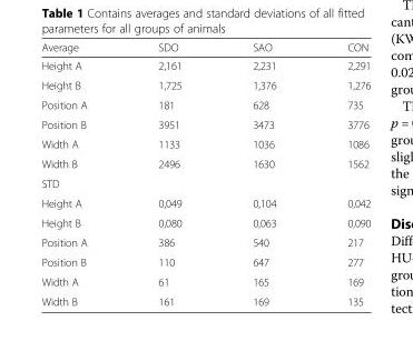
<table><thead><tr><td>Average</td><td>SDO</td><td>SAO</td><td>CON</td></tr></thead><tbody><tr><td>Height A</td><td>2,161</td><td>2,231</td><td>2,291</td></tr><tr><td>Height B</td><td>1,725</td><td>1,376</td><td>1,276</td></tr><tr><td>Position A</td><td>181</td><td>628</td><td>735</td></tr><tr><td>Position B</td><td>3951</td><td>3473</td><td>3776</td></tr><tr><td>Width A</td><td>1133</td><td>1036</td><td>1086</td></tr><tr><td>Width B</td><td>2496</td><td>1630</td><td>1562</td></tr><tr><td colspan="4">STD</td></tr><tr><td>Height A</td><td>0,049</td><td>0,104</td><td>0,042</td></tr><tr><td>Height B</td><td>0,080</td><td>0,063</td><td>0,090</td></tr><tr><td>Position A</td><td>386</td><td>540</td><td>217</td></tr><tr><td>Position B</td><td>110</td><td>647</td><td>277</td></tr><tr><td>Width A</td><td>61</td><td>165</td><td>169</td></tr><tr><td>Width B</td><td>161</td><td>169</td><td>135</td></tr></tbody></table>